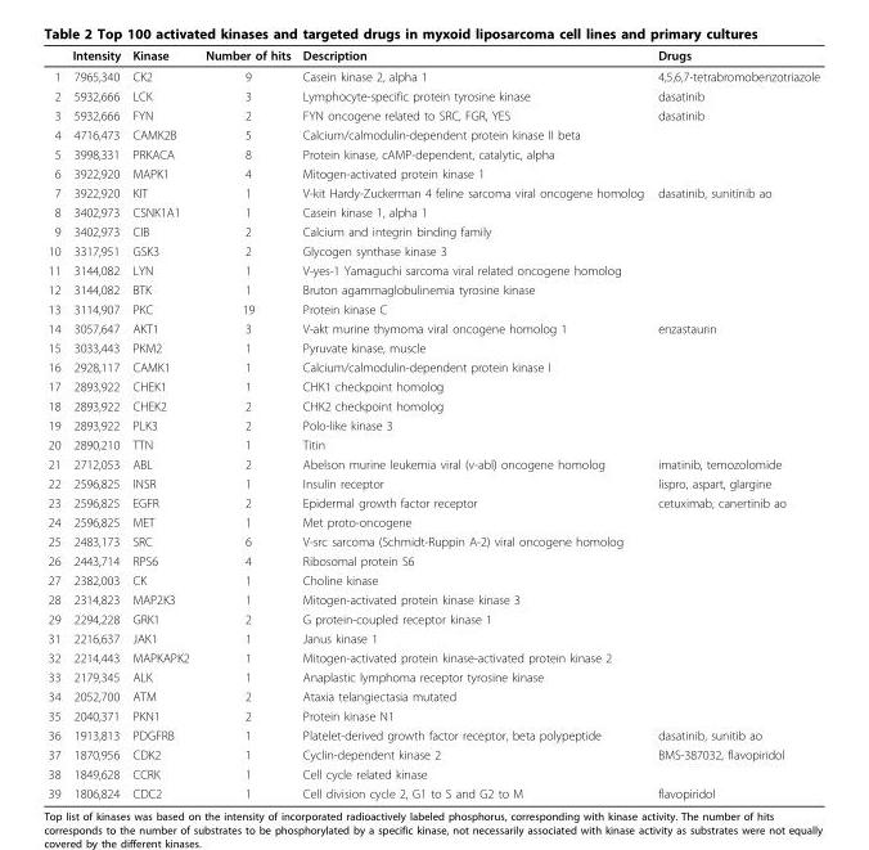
<table><thead><tr><td></td><td>Intensity</td><td>Kinase</td><td>Number of hits</td><td>Description</td><td>Drugs</td></tr></thead><tbody><tr><td>1</td><td>7965,340</td><td>CK2</td><td>9</td><td>Casein kinase 2, alpha 1</td><td>4,5,6,7-tetrabromobenzotriazole</td></tr><tr><td>2</td><td>5932,666</td><td>LCK</td><td>3</td><td>Lymphocyte-specific protein tyrosine kinase</td><td>dasatinib</td></tr><tr><td>3</td><td>5932,666</td><td>FYN</td><td>2</td><td>FYN oncogene related to SRC, FGR, YES</td><td>dasatinib</td></tr><tr><td>4</td><td>4716,473</td><td>CAMK2B</td><td>5</td><td>Calcium/calmodulin-dependent protein kinase II beta</td><td></td></tr><tr><td>5</td><td>3998,331</td><td>PRKACA</td><td>8</td><td>Protein kinase, cAMP-dependent, catalytic, alpha</td><td></td></tr><tr><td>6</td><td>3922,920</td><td>MAPK1</td><td>4</td><td>Mitogen-activated protein kinase 1</td><td></td></tr><tr><td>7</td><td>3922,920</td><td>KIT</td><td>1</td><td>V-kit Hardy-Zuckerman 4 feline sarcoma viral oncogene homolog</td><td>dasatinib, sunitinib ao</td></tr><tr><td>8</td><td>3402,973</td><td>CSNK1A1</td><td>1</td><td>Casein kinase 1, alpha 1</td><td></td></tr><tr><td>9</td><td>3402,973</td><td>CIB</td><td>2</td><td>Calcium and integrin binding family</td><td></td></tr><tr><td>10</td><td>3317,951</td><td>GSK3</td><td>2</td><td>Glycogen synthase kinase 3</td><td></td></tr><tr><td>11</td><td>3144,082</td><td>LYN</td><td>1</td><td>V-yes-1 Yamaguchi sarcoma viral related oncogene homolog</td><td></td></tr><tr><td>12</td><td>3144,082</td><td>BTK</td><td>1</td><td>Bruton agammaglobulinemia tyrosine kinase</td><td></td></tr><tr><td>13</td><td>3114,907</td><td>PKC</td><td>19</td><td>Protein kinase C</td><td></td></tr><tr><td>14</td><td>3057,647</td><td>AKT1</td><td>3</td><td>V-akt murine thymoma viral oncogene homolog 1</td><td>enzastaurin</td></tr><tr><td>15</td><td>3033,443</td><td>PKM2</td><td>1</td><td>Pyruvate kinase, muscle</td><td></td></tr><tr><td>16</td><td>2928,117</td><td>CAMK1</td><td>1</td><td>Calcium/calmodulin-dependent protein kinase I</td><td></td></tr><tr><td>17</td><td>2893,922</td><td>CHEK1</td><td>1</td><td>CHK1 checkpoint homolog</td><td></td></tr><tr><td>18</td><td>2893,922</td><td>CHEK2</td><td>2</td><td>CHK2 checkpoint homolog</td><td></td></tr><tr><td>19</td><td>2893,922</td><td>PLK3</td><td>2</td><td>Polo-like kinase 3</td><td></td></tr><tr><td>20</td><td>2890,210</td><td>TTN</td><td>1</td><td>Titin</td><td></td></tr><tr><td>21</td><td>2712,053</td><td>ABL</td><td>2</td><td>Abelson murine leukemia viral (v-abl) oncogene homolog</td><td>imatinib, temozolomide</td></tr><tr><td>22</td><td>2596,825</td><td>INSR</td><td>1</td><td>Insulin receptor</td><td>lispro, aspart, glargine</td></tr><tr><td>23</td><td>2596,825</td><td>EGFR</td><td>2</td><td>Epidermal growth factor receptor</td><td>cetuximab, canertinib ao</td></tr><tr><td>24</td><td>2596,825</td><td>MET</td><td>1</td><td>Met proto-oncogene</td><td></td></tr><tr><td>25</td><td>2483,173</td><td>SRC</td><td>6</td><td>V-src sarcoma (Schmidt-Ruppin A-2) viral oncogene homolog</td><td></td></tr><tr><td>26</td><td>2443,714</td><td>RPS6</td><td>4</td><td>Ribosomal protein S6</td><td></td></tr><tr><td>27</td><td>2382,003</td><td>CK</td><td>1</td><td>Choline kinase</td><td></td></tr><tr><td>28</td><td>2314,823</td><td>MAP2K3</td><td>1</td><td>Mitogen-activated protein kinase kinase 3</td><td></td></tr><tr><td>29</td><td>2294,228</td><td>GRK1</td><td>2</td><td>G protein-coupled receptor kinase 1</td><td></td></tr><tr><td>31</td><td>2216,637</td><td>JAK1</td><td>1</td><td>Janus kinase 1</td><td></td></tr><tr><td>32</td><td>2214,443</td><td>MAPKAPK2</td><td>1</td><td>Mitogen-activated protein kinase-activated protein kinase 2</td><td></td></tr><tr><td>33</td><td>2179,345</td><td>ALK</td><td>1</td><td>Anaplastic lymphoma receptor tyrosine kinase</td><td></td></tr><tr><td>34</td><td>2052,700</td><td>ATM</td><td>2</td><td>Ataxia telangiectasia mutated</td><td></td></tr><tr><td>35</td><td>2040,371</td><td>PKN1</td><td>2</td><td>Protein kinase N1</td><td></td></tr><tr><td>36</td><td>1913,813</td><td>PDGFRB</td><td>1</td><td>Platelet-derived growth factor receptor, beta polypeptide</td><td>dasatinib, sunitib ao</td></tr><tr><td>37</td><td>1870,956</td><td>CDK2</td><td>1</td><td>Cyclin-dependent kinase 2</td><td>BMS-387032, flavopiridol</td></tr><tr><td>38</td><td>1849,628</td><td>CCRK</td><td>1</td><td>Cell cycle related kinase</td><td></td></tr><tr><td>39</td><td>1806,824</td><td>CDC2</td><td>1</td><td>Cell division cycle 2, G1 to S and G2 to M</td><td>flavopiridol</td></tr></tbody></table>